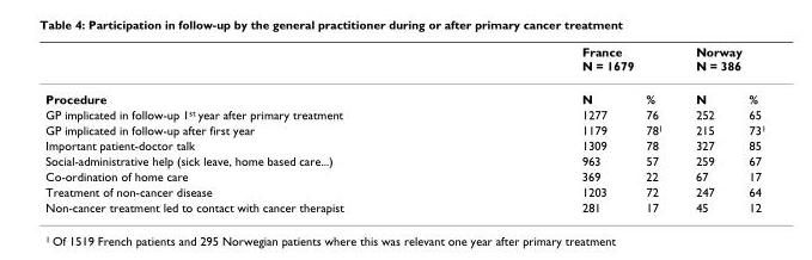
<table><thead><tr><td rowspan="2">Procedure</td><td colspan="2">France N = 1679</td><td colspan="2">Norway N = 386</td></tr><tr><td>N</td><td>%</td><td>N</td><td>%</td></tr></thead><tbody><tr><td>GP implicated in follow-up 1<sup>st</sup> year after primary treatment</td><td>1277</td><td>76</td><td>252</td><td>65</td></tr><tr><td>GP implicated in follow-up after first year</td><td>1179</td><td>78<sup>1</sup></td><td>215</td><td>73<sup>1</sup></td></tr><tr><td>Important patient-doctor talk</td><td>1309</td><td>78</td><td>327</td><td>85</td></tr><tr><td>Social-administrative help (sick leave, home based care...)</td><td>963</td><td>57</td><td>259</td><td>67</td></tr><tr><td>Co-ordination of home care</td><td>369</td><td>22</td><td>67</td><td>17</td></tr><tr><td>Treatment of non-cancer disease</td><td>1203</td><td>72</td><td>247</td><td>64</td></tr><tr><td>Non-cancer treatment led to contact with cancer therapist</td><td>281</td><td>17</td><td>45</td><td>12</td></tr></tbody></table>